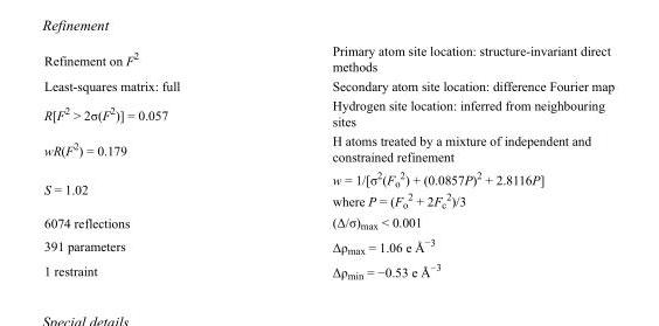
<table><tbody><tr><td>Refinement on F<sup>2</sup></td><td>Primary atom site location: structure-invariant direct methods</td></tr><tr><td>Least-squares matrix: full</td><td>Secondary atom site location: difference Fourier map</td></tr><tr><td>R[F<sup>2</sup> &gt; 2σ(F<sup>2</sup>)] = 0.057</td><td>Hydrogen site location: inferred from neighbouring sites</td></tr><tr><td>wR(F<sup>2</sup>) = 0.179</td><td>H atoms treated by a mixture of independent and constrained refinement</td></tr><tr><td>S = 1.02</td><td>w = 1/[σ<sup>2</sup>(F<sub>o</sub> <sup>2</sup>) + (0.0857P)<sup>2</sup> + 2.8116P] where P = (F<sub>o</sub> <sup>2</sup> + 2F<sub>c</sub> <sup>2</sup>)/3</td></tr><tr><td>6074 reflections</td><td>(Δ/σ)<sub>max</sub> &lt; 0.001</td></tr><tr><td>391 parameters</td><td>Δρ<sub>max</sub> = 1.06 e Å<sup>−3</sup></td></tr><tr><td>1 restraint</td><td>Δρ<sub>min</sub> = −0.53 e Å<sup>−3</sup></td></tr></tbody></table>